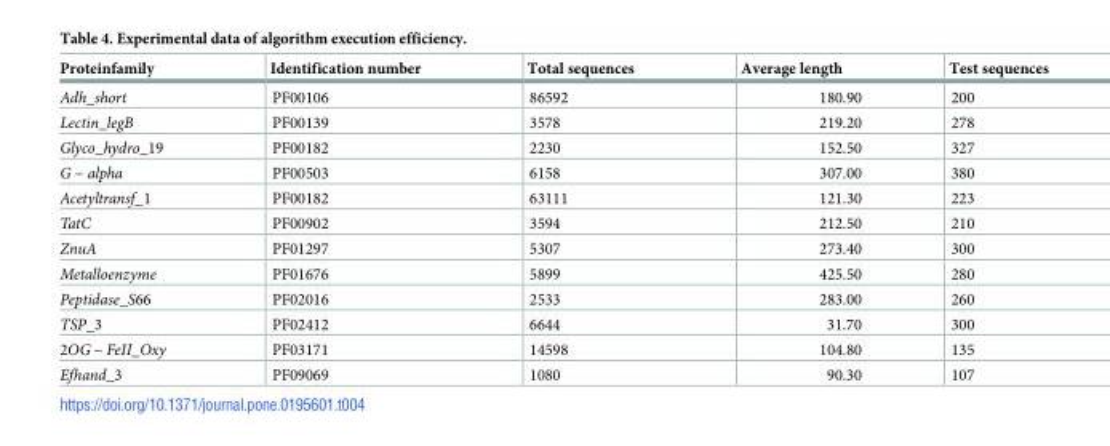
<table><thead><tr><td>Proteinfamily</td><td>Identification number</td><td>Total sequences</td><td>Average length</td><td>Test sequences</td></tr></thead><tbody><tr><td>Adh_short</td><td>PF00106</td><td>86592</td><td>180.90</td><td>200</td></tr><tr><td>Lectin_legB</td><td>PF00139</td><td>3578</td><td>219.20</td><td>278</td></tr><tr><td>Glyco_hydro_19</td><td>PF00182</td><td>2230</td><td>152.50</td><td>327</td></tr><tr><td>G − alpha</td><td>PF00503</td><td>6158</td><td>307.00</td><td>380</td></tr><tr><td>Acetyltransf_1</td><td>PF00182</td><td>63111</td><td>121.30</td><td>223</td></tr><tr><td>TatC</td><td>PF00902</td><td>3594</td><td>212.50</td><td>210</td></tr><tr><td>ZnuA</td><td>PF01297</td><td>5307</td><td>273.40</td><td>300</td></tr><tr><td>Metalloenzyme</td><td>PF01676</td><td>5899</td><td>425.50</td><td>280</td></tr><tr><td>Peptidase_S66</td><td>PF02016</td><td>2533</td><td>283.00</td><td>260</td></tr><tr><td>TSP_3</td><td>PF02412</td><td>6644</td><td>31.70</td><td>300</td></tr><tr><td>2OG − FeII_Oxy</td><td>PF03171</td><td>14598</td><td>104.80</td><td>135</td></tr><tr><td>Efhand_3</td><td>PF09069</td><td>1080</td><td>90.30</td><td>107</td></tr></tbody></table>